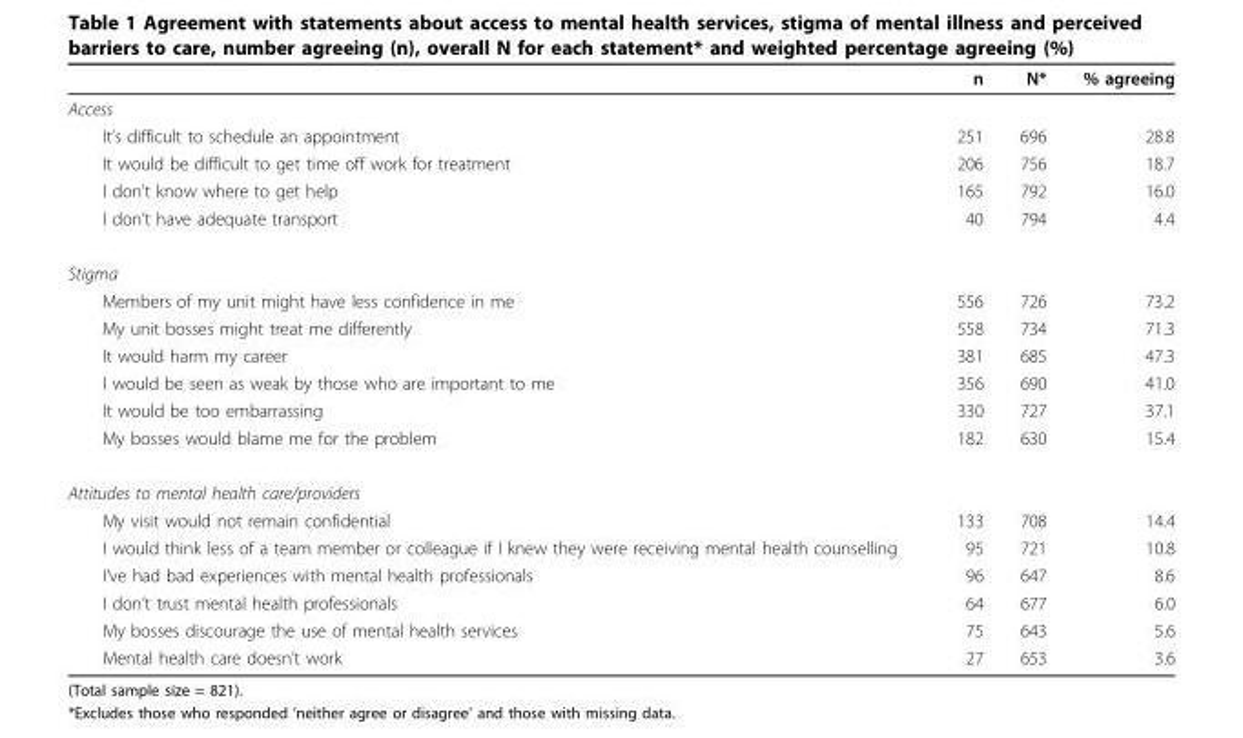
<table><thead><tr><td></td><td>n</td><td>N*</td><td>% agreeing</td></tr></thead><tbody><tr><td colspan="4">Access</td></tr><tr><td>It’s difficult to schedule an appointment</td><td>251</td><td>696</td><td>28.8</td></tr><tr><td>It would be difficult to get time off work for treatment</td><td>206</td><td>756</td><td>18.7</td></tr><tr><td>I don’t know where to get help</td><td>165</td><td>792</td><td>16.0</td></tr><tr><td>I don’t have adequate transport</td><td>40</td><td>794</td><td>4.4</td></tr><tr><td colspan="4">Stigma</td></tr><tr><td>Members of my unit might have less confidence in me</td><td>556</td><td>726</td><td>73.2</td></tr><tr><td>My unit bosses might treat me differently</td><td>558</td><td>734</td><td>71.3</td></tr><tr><td>It would harm my career</td><td>381</td><td>685</td><td>47.3</td></tr><tr><td>I would be seen as weak by those who are important to me</td><td>356</td><td>690</td><td>41.0</td></tr><tr><td>It would be too embarrassing</td><td>330</td><td>727</td><td>37.1</td></tr><tr><td>My bosses would blame me for the problem</td><td>182</td><td>630</td><td>15.4</td></tr><tr><td colspan="4">Attitudes to mental health care/providers</td></tr><tr><td>My visit would not remain confidential</td><td>133</td><td>708</td><td>14.4</td></tr><tr><td>I would think less of a team member or colleague if I knew they were receiving mental health counselling</td><td>95</td><td>721</td><td>10.8</td></tr><tr><td>I’ve had bad experiences with mental health professionals</td><td>96</td><td>647</td><td>8.6</td></tr><tr><td>I don’t trust mental health professionals</td><td>64</td><td>677</td><td>6.0</td></tr><tr><td>My bosses discourage the use of mental health services</td><td>75</td><td>643</td><td>5.6</td></tr><tr><td>Mental health care doesn’t work</td><td>27</td><td>653</td><td>3.6</td></tr></tbody></table>